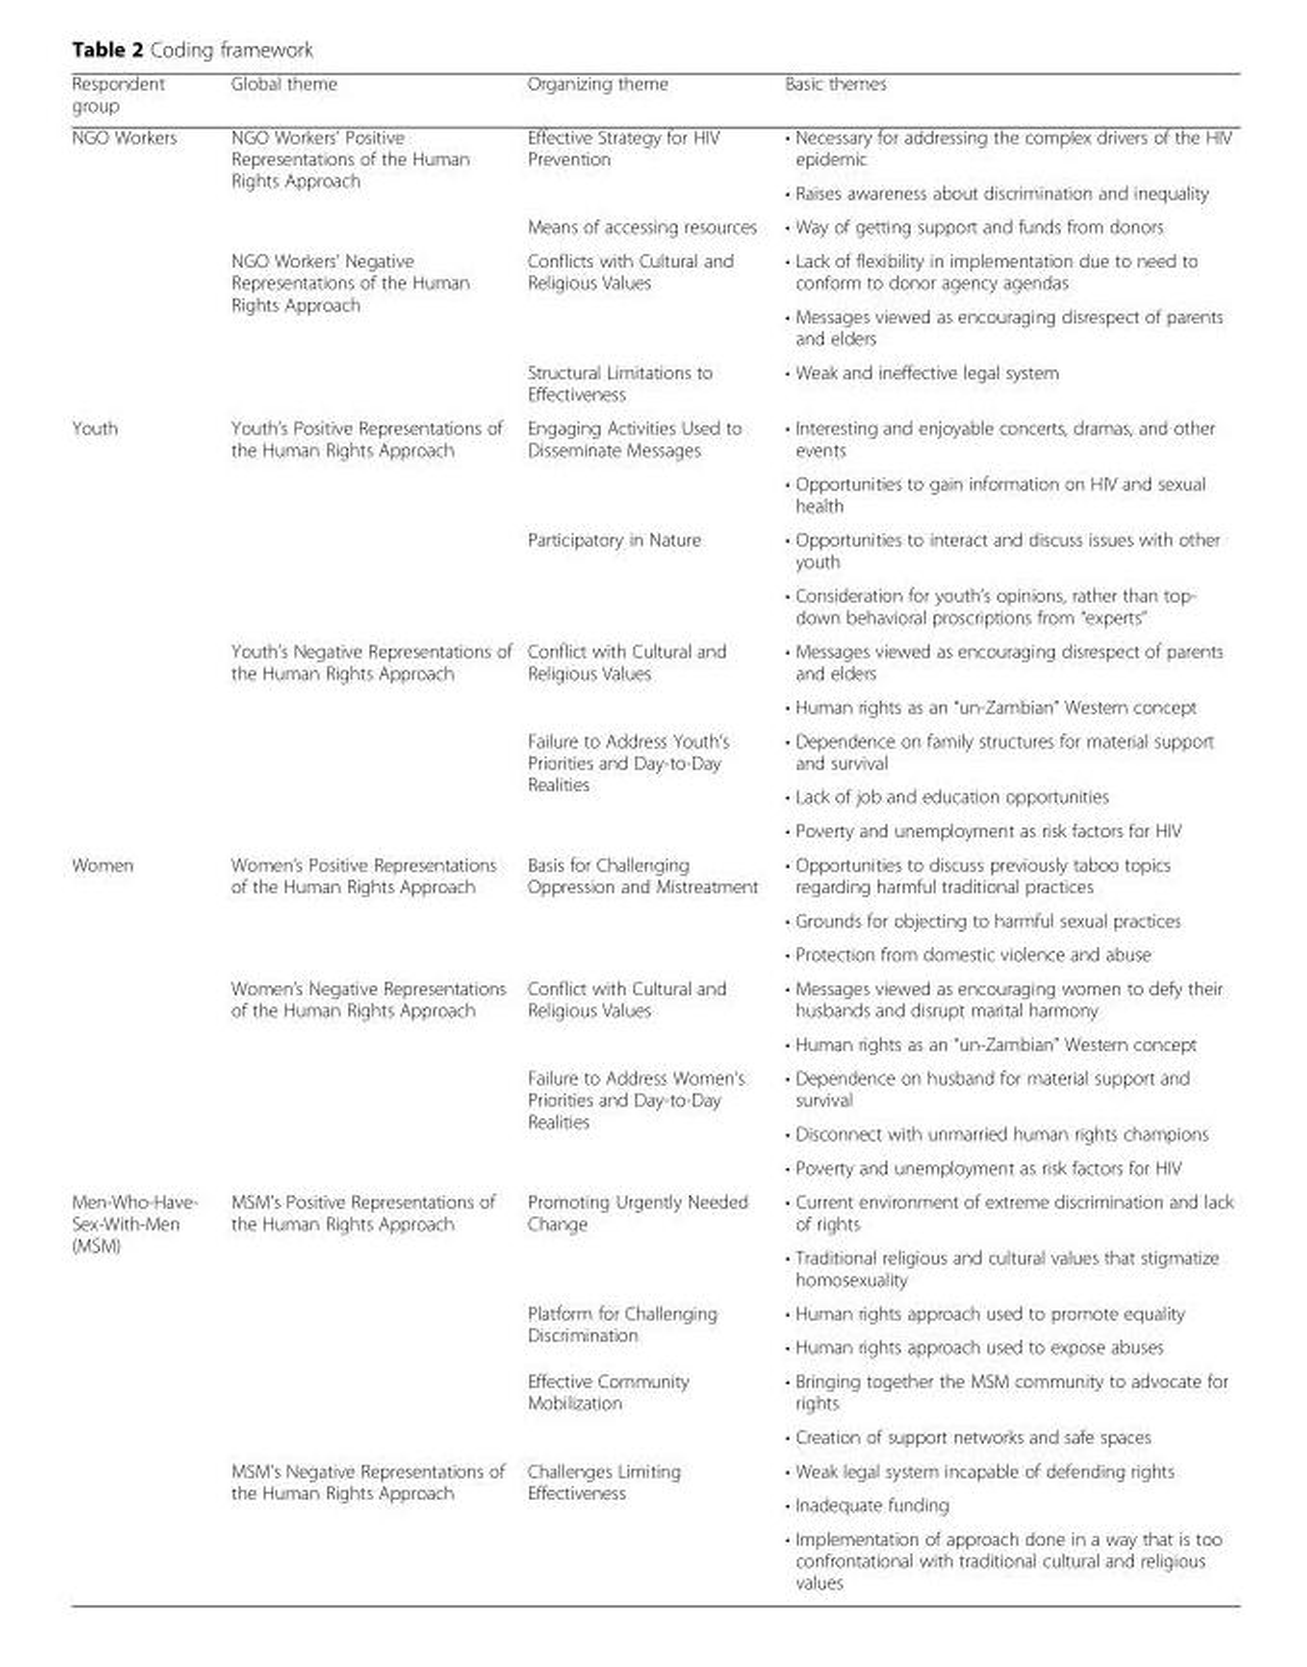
<table><thead><tr><td>Respondent group</td><td>Global theme</td><td>Organizing theme</td><td>Basic themes</td></tr></thead><tbody><tr><td rowspan="6">NGO Workers</td><td rowspan="3">NGO Workers’ Positive Representations of the Human Rights Approach</td><td rowspan="2">Effective Strategy for HIV Prevention</td><td>• Necessary for addressing the complex drivers of the HIV epidemic</td></tr><tr><td>• Raises awareness about discrimination and inequality</td></tr><tr><td>Means of accessing resources</td><td>• Way of getting support and funds from donors</td></tr><tr><td rowspan="3">NGO Workers’ Negative Representations of the Human Rights Approach</td><td rowspan="2">Conflicts with Cultural and Religious Values</td><td>• Lack of flexibility in implementation due to need to conform to donor agency agendas</td></tr><tr><td>• Messages viewed as encouraging disrespect of parents and elders</td></tr><tr><td>Structural Limitations to Effectiveness</td><td>• Weak and ineffective legal system</td></tr><tr><td rowspan="9">Youth</td><td rowspan="4">Youth’s Positive Representations of the Human Rights Approach</td><td rowspan="2">Engaging Activities Used to Disseminate Messages</td><td>• Interesting and enjoyable concerts, dramas, and other events</td></tr><tr><td>• Opportunities to gain information on HIV and sexual health</td></tr><tr><td rowspan="2">Participatory in Nature</td><td>• Opportunities to interact and discuss issues with other youth</td></tr><tr><td>• Consideration for youth’s opinions, rather than top- down behavioral proscriptions from “experts”</td></tr><tr><td rowspan="5">Youth’s Negative Representations of the Human Rights Approach</td><td rowspan="2">Conflict with Cultural and Religious Values</td><td>• Messages viewed as encouraging disrespect of parents and elders</td></tr><tr><td>• Human rights as an “un-Zambian” Western concept</td></tr><tr><td rowspan="3">Failure to Address Youth’s Priorities and Day-to-Day Realities</td><td>• Dependence on family structures for material support and survival</td></tr><tr><td>• Lack of job and education opportunities</td></tr><tr><td>• Poverty and unemployment as risk factors for HIV</td></tr><tr><td rowspan="8">Women</td><td rowspan="3">Women’s Positive Representations of the Human Rights Approach</td><td rowspan="3">Basis for Challenging Oppression and Mistreatment</td><td>• Opportunities to discuss previously taboo topics regarding harmful traditional practices</td></tr><tr><td>• Grounds for objecting to harmful sexual practices</td></tr><tr><td>• Protection from domestic violence and abuse</td></tr><tr><td rowspan="5">Women’s Negative Representations of the Human Rights Approach</td><td rowspan="2">Conflict with Cultural and Religious Values</td><td>• Messages viewed as encouraging women to defy their husbands and disrupt marital harmony</td></tr><tr><td>• Human rights as an “un-Zambian” Western concept</td></tr><tr><td rowspan="3">Failure to Address Women’s Priorities and Day-to-Day Realities</td><td>• Dependence on husband for material support and survival</td></tr><tr><td>• Disconnect with unmarried human rights champions</td></tr><tr><td>• Poverty and unemployment as risk factors for HIV</td></tr><tr><td rowspan="9">Men-Who-Have- Sex-With-Men (MSM)</td><td rowspan="6">MSM’s Positive Representations of the Human Rights Approach</td><td rowspan="2">Promoting Urgently Needed Change</td><td>• Current environment of extreme discrimination and lack of rights</td></tr><tr><td>• Traditional religious and cultural values that stigmatize homosexuality</td></tr><tr><td rowspan="2">Platform for Challenging Discrimination</td><td>• Human rights approach used to promote equality</td></tr><tr><td>• Human rights approach used to expose abuses</td></tr><tr><td rowspan="2">Effective Community Mobilization</td><td>• Bringing together the MSM community to advocate for rights</td></tr><tr><td>• Creation of support networks and safe spaces</td></tr><tr><td rowspan="3">MSM’s Negative Representations of the Human Rights Approach</td><td rowspan="3">Challenges Limiting Effectiveness</td><td>• Weak legal system incapable of defending rights</td></tr><tr><td>• Inadequate funding</td></tr><tr><td>• Implementation of approach done in a way that is too confrontational with traditional cultural and religious values</td></tr></tbody></table>